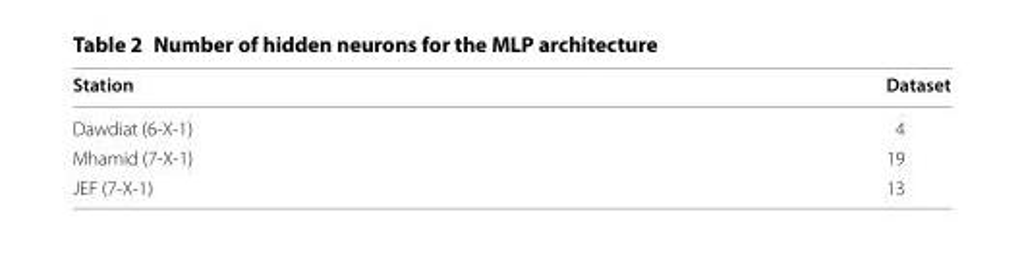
<table><thead><tr><td>Station</td><td>Dataset</td></tr></thead><tbody><tr><td>Dawdiat (6-X-1)</td><td>4</td></tr><tr><td>Mhamid (7-X-1)</td><td>19</td></tr><tr><td>JEF (7-X-1)</td><td>13</td></tr></tbody></table>